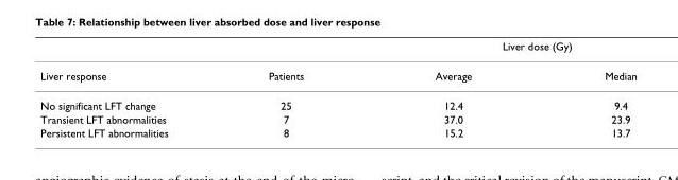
<table><thead><tr><td rowspan="2">Liver response</td><td rowspan="2">Patients</td><td colspan="2">Liver dose (Gy)</td></tr><tr><td>Average</td><td>Median</td></tr></thead><tbody><tr><td>No significant LFT change</td><td>25</td><td>12.4</td><td>9.4</td></tr><tr><td>Transient LFT abnormalities</td><td>7</td><td>37.0</td><td>23.9</td></tr><tr><td>Persistent LFT abnormalities</td><td>8</td><td>15.2</td><td>13.7</td></tr></tbody></table>